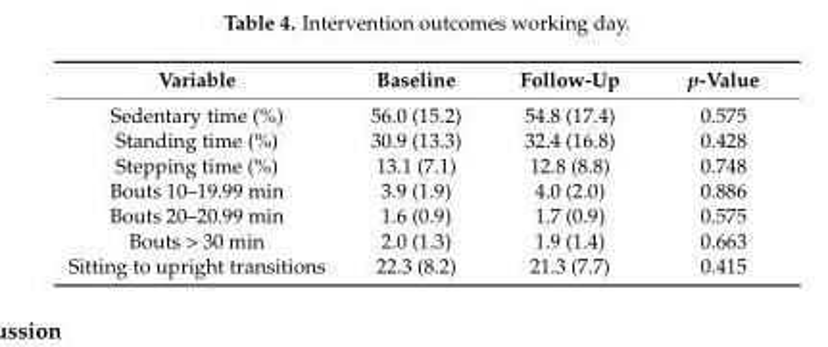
<table><thead><tr><td>Variable</td><td>Baseline</td><td>Follow-Up</td><td>p-Value</td></tr></thead><tbody><tr><td>Sedentary time (%)</td><td>56.0 (15.2)</td><td>54.8 (17.4)</td><td>0.575</td></tr><tr><td>Standing time (%)</td><td>30.9 (13.3)</td><td>32.4 (16.8)</td><td>0.428</td></tr><tr><td>Stepping time (%)</td><td>13.1 (7.1)</td><td>12.8 (8.8)</td><td>0.748</td></tr><tr><td>Bouts 10–19.99 min</td><td>3.9 (1.9)</td><td>4.0 (2.0)</td><td>0.886</td></tr><tr><td>Bouts 20–20.99 min</td><td>1.6 (0.9)</td><td>1.7 (0.9)</td><td>0.575</td></tr><tr><td>Bouts &gt; 30 min</td><td>2.0 (1.3)</td><td>1.9 (1.4)</td><td>0.663</td></tr><tr><td>Sitting to upright transitions</td><td>22.3 (8.2)</td><td>21.3 (7.7)</td><td>0.415</td></tr></tbody></table>